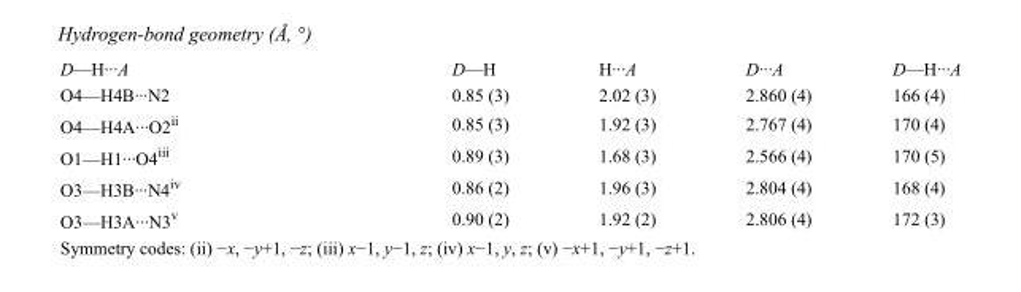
<table><tbody><tr><td>D—H···A</td><td>D—H</td><td>H···A</td><td>D···A</td><td>D—H···A</td></tr><tr><td>O4—H4B···N2</td><td>0.85 (3)</td><td>2.02 (3)</td><td>2.860 (4)</td><td>166 (4)</td></tr><tr><td>O4—H4A···O2<sup>ii</sup></td><td>0.85 (3)</td><td>1.92 (3)</td><td>2.767 (4)</td><td>170 (4)</td></tr><tr><td>O1—H1···O4<sup>iii</sup></td><td>0.89 (3)</td><td>1.68 (3)</td><td>2.566 (4)</td><td>170 (5)</td></tr><tr><td>O3—H3B···N4<sup>iv</sup></td><td>0.86 (2)</td><td>1.96 (3)</td><td>2.804 (4)</td><td>168 (4)</td></tr><tr><td>O3—H3A···N3<sup>v</sup></td><td>0.90 (2)</td><td>1.92 (2)</td><td>2.806 (4)</td><td>172 (3)</td></tr></tbody></table>